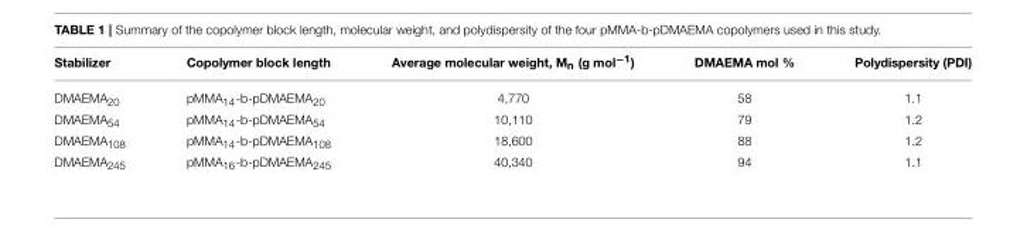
<table><thead><tr><td>Stabilizer</td><td>Copolymer block length</td><td>Average molecular weight, M<sub>n</sub> (g mol<sup>−1</sup>)</td><td>DMAEMA mol %</td><td>Polydispersity (PDI)</td></tr></thead><tbody><tr><td>DMAEMA<sub>20</sub></td><td>pMMA<sub>14</sub>-b-pDMAEMA<sub>20</sub></td><td>4,770</td><td>58</td><td>1.1</td></tr><tr><td>DMAEMA<sub>54</sub></td><td>pMMA<sub>14</sub>-b-pDMAEMA<sub>54</sub></td><td>10,110</td><td>79</td><td>1.2</td></tr><tr><td>DMAEMA<sub>108</sub></td><td>pMMA<sub>14</sub>-b-pDMAEMA<sub>108</sub></td><td>18,600</td><td>88</td><td>1.2</td></tr><tr><td>DMAEMA<sub>245</sub></td><td>pMMA<sub>16</sub>-b-pDMAEMA<sub>245</sub></td><td>40,340</td><td>94</td><td>1.1</td></tr></tbody></table>